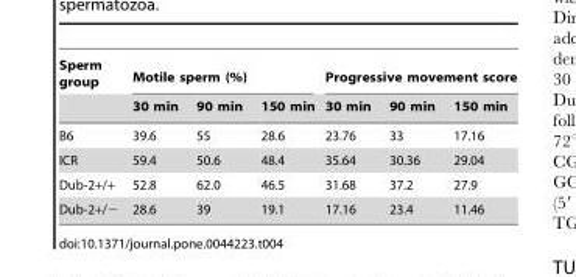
<table><thead><tr><td rowspan="2">Sperm group</td><td colspan="3">Motile sperm (%)</td><td colspan="3">Progressive movement score</td></tr><tr><td>30 min</td><td>90 min</td><td>150 min</td><td>30 min</td><td>90 min</td><td>150 min</td></tr></thead><tbody><tr><td>B6</td><td>39.6</td><td>55</td><td>28.6</td><td>23.76</td><td>33</td><td>17.16</td></tr><tr><td>ICR</td><td>59.4</td><td>50.6</td><td>48.4</td><td>35.64</td><td>30.36</td><td>29.04</td></tr><tr><td>Dub-2+/+</td><td>52.8</td><td>62.0</td><td>46.5</td><td>31.68</td><td>37.2</td><td>27.9</td></tr><tr><td>Dub-2+/−</td><td>28.6</td><td>39</td><td>19.1</td><td>17.16</td><td>23.4</td><td>11.46</td></tr></tbody></table>